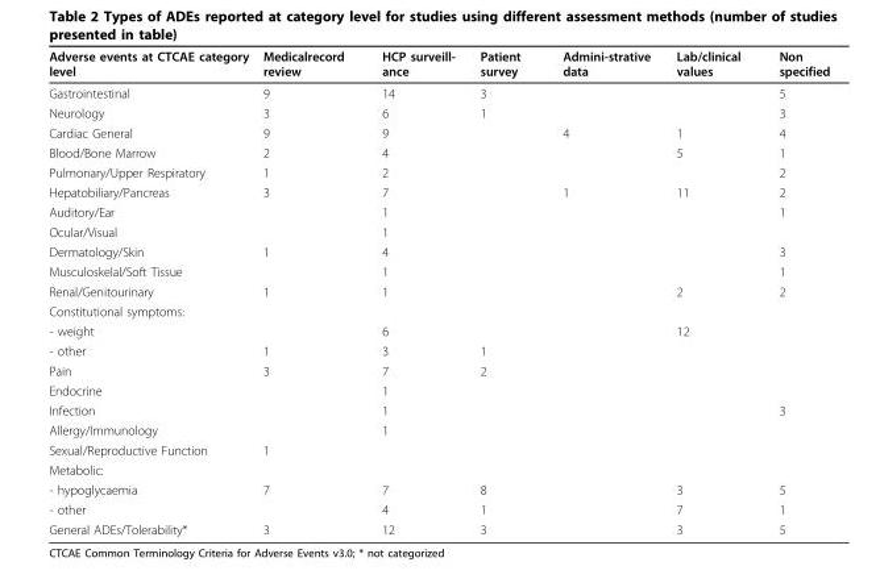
<table><thead><tr><td>Adverse events at CTCAE category level</td><td>Medicalrecord review</td><td>HCP surveill- ance</td><td>Patient survey</td><td>Admini-strative data</td><td>Lab/clinical values</td><td>Non specified</td></tr></thead><tbody><tr><td>Gastrointestinal</td><td>9</td><td>14</td><td>3</td><td></td><td></td><td>5</td></tr><tr><td>Neurology</td><td>3</td><td>6</td><td>1</td><td></td><td></td><td>3</td></tr><tr><td>Cardiac General</td><td>9</td><td>9</td><td></td><td>4</td><td>1</td><td>4</td></tr><tr><td>Blood/Bone Marrow</td><td>2</td><td>4</td><td></td><td></td><td>5</td><td>1</td></tr><tr><td>Pulmonary/Upper Respiratory</td><td>1</td><td>2</td><td></td><td></td><td></td><td>2</td></tr><tr><td>Hepatobiliary/Pancreas</td><td>3</td><td>7</td><td></td><td>1</td><td>11</td><td>2</td></tr><tr><td>Auditory/Ear</td><td></td><td>1</td><td></td><td></td><td></td><td>1</td></tr><tr><td>Ocular/Visual</td><td></td><td>1</td><td></td><td></td><td></td><td></td></tr><tr><td>Dermatology/Skin</td><td>1</td><td>4</td><td></td><td></td><td></td><td>3</td></tr><tr><td>Musculoskelal/Soft Tissue</td><td></td><td>1</td><td></td><td></td><td></td><td>1</td></tr><tr><td>Renal/Genitourinary</td><td>1</td><td>1</td><td></td><td></td><td>2</td><td>2</td></tr><tr><td colspan="7">Constitutional symptoms:</td></tr><tr><td>- weight</td><td></td><td>6</td><td></td><td></td><td>12</td><td></td></tr><tr><td>- other</td><td>1</td><td>3</td><td>1</td><td></td><td></td><td></td></tr><tr><td>Pain</td><td>3</td><td>7</td><td>2</td><td></td><td></td><td></td></tr><tr><td>Endocrine</td><td></td><td>1</td><td></td><td></td><td></td><td></td></tr><tr><td>Infection</td><td></td><td>1</td><td></td><td></td><td></td><td>3</td></tr><tr><td>Allergy/Immunology</td><td></td><td>1</td><td></td><td></td><td></td><td></td></tr><tr><td>Sexual/Reproductive Function</td><td>1</td><td></td><td></td><td></td><td></td><td></td></tr><tr><td colspan="7">Metabolic:</td></tr><tr><td>- hypoglycaemia</td><td>7</td><td>7</td><td>8</td><td></td><td>3</td><td>5</td></tr><tr><td>- other</td><td></td><td>4</td><td>1</td><td></td><td>7</td><td>1</td></tr><tr><td>General ADEs/Tolerability*</td><td>3</td><td>12</td><td>3</td><td></td><td>3</td><td>5</td></tr></tbody></table>